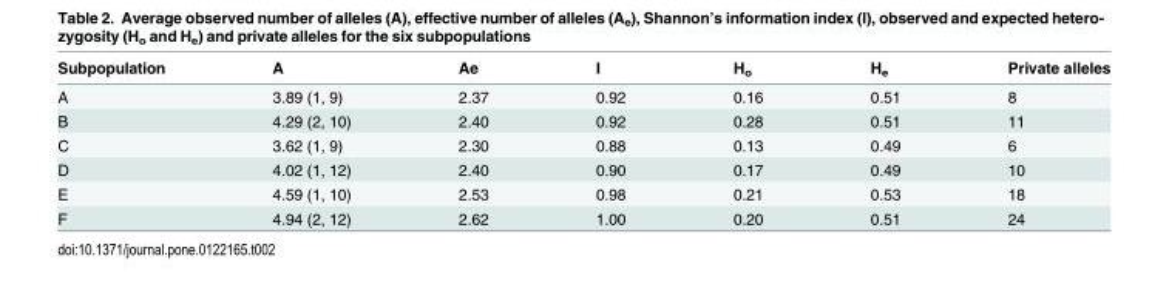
<table><thead><tr><td>Subpopulation</td><td>A</td><td>Ae</td><td>I</td><td>H<sub>o</sub></td><td>H<sub>e</sub></td><td>Private alleles</td></tr></thead><tbody><tr><td>A</td><td>3.89 (1, 9)</td><td>2.37</td><td>0.92</td><td>0.16</td><td>0.51</td><td>8</td></tr><tr><td>B</td><td>4.29 (2, 10)</td><td>2.40</td><td>0.92</td><td>0.28</td><td>0.51</td><td>11</td></tr><tr><td>C</td><td>3.62 (1, 9)</td><td>2.30</td><td>0.88</td><td>0.13</td><td>0.49</td><td>6</td></tr><tr><td>D</td><td>4.02 (1, 12)</td><td>2.40</td><td>0.90</td><td>0.17</td><td>0.49</td><td>10</td></tr><tr><td>E</td><td>4.59 (1, 10)</td><td>2.53</td><td>0.98</td><td>0.21</td><td>0.53</td><td>18</td></tr><tr><td>F</td><td>4.94 (2, 12)</td><td>2.62</td><td>1.00</td><td>0.20</td><td>0.51</td><td>24</td></tr></tbody></table>